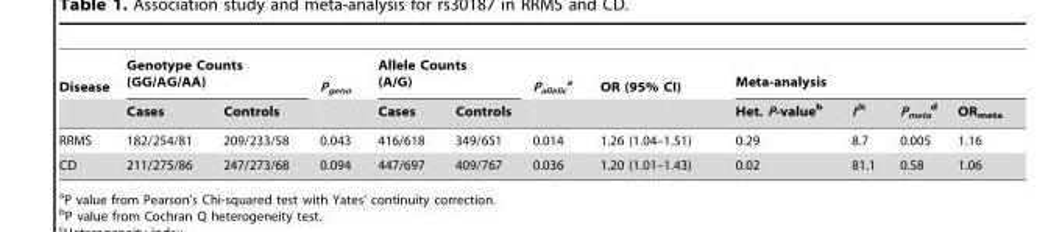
<table><thead><tr><td rowspan="2">Disease</td><td colspan="2">Genotype Counts (GG/AG/AA)</td><td rowspan="2">P<sub>geno</sub></td><td colspan="2">Allele Counts (A/G)</td><td rowspan="2">P<sub>allelic</sub> a</td><td rowspan="2">OR (95% CI)</td><td colspan="4">Meta-analysis</td></tr><tr><td>Cases</td><td>Controls</td><td>Cases</td><td>Controls</td><td>Het. P-value<sup>b</sup></td><td>I<sup>2</sup>c</td><td>P<sub>meta</sub> d</td><td>OR<sub>meta</sub></td></tr></thead><tbody><tr><td>RRMS</td><td>182/254/81</td><td>209/233/58</td><td>0.043</td><td>416/618</td><td>349/651</td><td>0.014</td><td>1.26 (1.04–1.51)</td><td>0.29</td><td>8.7</td><td>0.005</td><td>1.16</td></tr><tr><td>CD</td><td>211/275/86</td><td>247/273/68</td><td>0.094</td><td>447/697</td><td>409/767</td><td>0.036</td><td>1.20 (1.01–1.43)</td><td>0.02</td><td>81.1</td><td>0.58</td><td>1.06</td></tr></tbody></table>